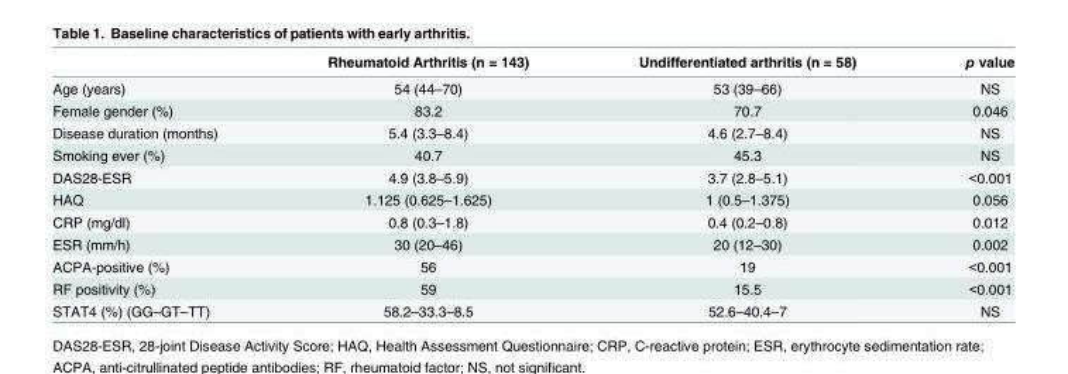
<table><thead><tr><td></td><td>Rheumatoid Arthritis (n = 143)</td><td>Undifferentiated arthritis (n = 58)</td><td>p value</td></tr></thead><tbody><tr><td>Age (years)</td><td>54 (44–70)</td><td>53 (39–66)</td><td>NS</td></tr><tr><td>Female gender (%)</td><td>83.2</td><td>70.7</td><td>0.046</td></tr><tr><td>Disease duration (months)</td><td>5.4 (3.3–8.4)</td><td>4.6 (2.7–8.4)</td><td>NS</td></tr><tr><td>Smoking ever (%)</td><td>40.7</td><td>45.3</td><td>NS</td></tr><tr><td>DAS28-ESR</td><td>4.9 (3.8–5.9)</td><td>3.7 (2.8–5.1)</td><td>&lt;0.001</td></tr><tr><td>HAQ</td><td>1.125 (0.625–1.625)</td><td>1 (0.5–1.375)</td><td>0.056</td></tr><tr><td>CRP (mg/dl)</td><td>0.8 (0.3–1.8)</td><td>0.4 (0.2–0.8)</td><td>0.012</td></tr><tr><td>ESR (mm/h)</td><td>30 (20–46)</td><td>20 (12–30)</td><td>0.002</td></tr><tr><td>ACPA-positive (%)</td><td>56</td><td>19</td><td>&lt;0.001</td></tr><tr><td>RF positivity (%)</td><td>59</td><td>15.5</td><td>&lt;0.001</td></tr><tr><td>STAT4 (%) (GG–GT–TT)</td><td>58.2–33.3–8.5</td><td>52.6–40.4–7</td><td>NS</td></tr></tbody></table>